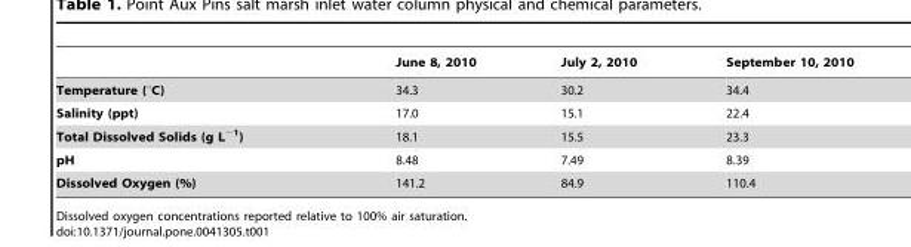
<table><thead><tr><td></td><td>June 8, 2010</td><td>July 2, 2010</td><td>September 10, 2010</td></tr></thead><tbody><tr><td>Temperature (°C)</td><td>34.3</td><td>30.2</td><td>34.4</td></tr><tr><td>Salinity (ppt)</td><td>17.0</td><td>15.1</td><td>22.4</td></tr><tr><td>Total Dissolved Solids (g L<sup>−1</sup>)</td><td>18.1</td><td>15.5</td><td>23.3</td></tr><tr><td>pH</td><td>8.48</td><td>7.49</td><td>8.39</td></tr><tr><td>Dissolved Oxygen (%)</td><td>141.2</td><td>84.9</td><td>110.4</td></tr></tbody></table>